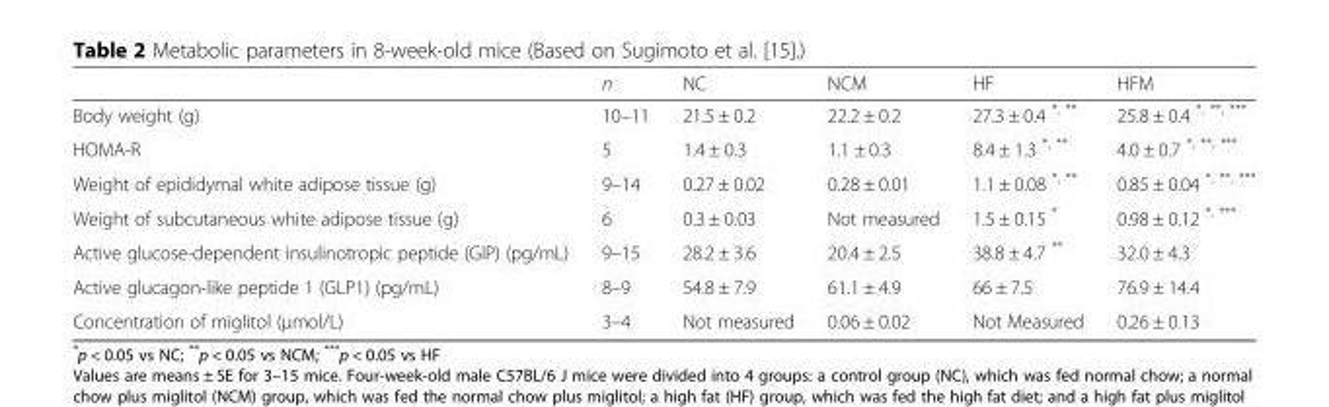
<table><thead><tr><td></td><td>n</td><td>NC</td><td>NCM</td><td>HF</td><td>HFM</td></tr></thead><tbody><tr><td>Body weight (g)</td><td>10–11</td><td>21.5 ± 0.2</td><td>22.2 ± 0.2</td><td>27.3 ± 0.4 <sup>*, **</sup></td><td>25.8 ± 0.4 <sup>*, **, ***</sup></td></tr><tr><td>HOMA-R</td><td>5</td><td>1.4 ± 0.3</td><td>1.1 ± 0.3</td><td>8.4 ± 1.3 <sup>*, **</sup></td><td>4.0 ± 0.7 <sup>*, **, ***</sup></td></tr><tr><td>Weight of epididymal white adipose tissue (g)</td><td>9–14</td><td>0.27 ± 0.02</td><td>0.28 ± 0.01</td><td>1.1 ± 0.08 <sup>*, **</sup></td><td>0.85 ± 0.04 <sup>*, **, ***</sup></td></tr><tr><td>Weight of subcutaneous white adipose tissue (g)</td><td>6</td><td>0.3 ± 0.03</td><td>Not measured</td><td>1.5 ± 0.15 *</td><td>0.98 ± 0.12 <sup>*, ***</sup></td></tr><tr><td>Active glucose-dependent insulinotropic peptide (GIP) (pg/mL)</td><td>9–15</td><td>28.2 ± 3.6</td><td>20.4 ± 2.5</td><td>38.8 ± 4.7 **</td><td>32.0 ± 4.3</td></tr><tr><td>Active glucagon-like peptide 1 (GLP1) (pg/mL)</td><td>8–9</td><td>54.8 ± 7.9</td><td>61.1 ± 4.9</td><td>66 ± 7.5</td><td>76.9 ± 14.4</td></tr><tr><td>Concentration of miglitol (μmol/L)</td><td>3–4</td><td>Not measured</td><td>0.06 ± 0.02</td><td>Not Measured</td><td>0.26 ± 0.13</td></tr></tbody></table>